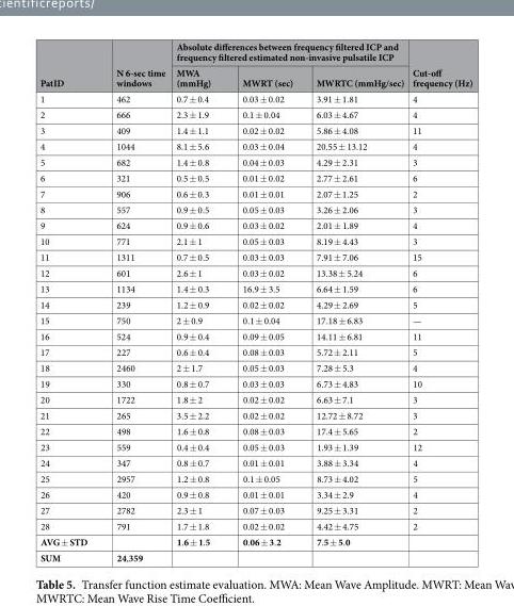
<table><thead><tr><td rowspan="2">PatID</td><td rowspan="2">N 6-sec time windows</td><td colspan="3">Absolute differences between frequency filtered ICP and frequency filtered estimated non-invasive pulsatile ICP</td><td rowspan="2">Cut-off frequency (Hz)</td></tr><tr><td>MWA (mmHg)</td><td>MWRT (sec)</td><td>MWRTC (mmHg/sec)</td></tr></thead><tbody><tr><td>1</td><td>462</td><td>0.7 ± 0.4</td><td>0.03 ± 0.02</td><td>3.91 ± 1.81</td><td>4</td></tr><tr><td>2</td><td>666</td><td>2.3 ± 1.9</td><td>0.1 ± 0.04</td><td>6.03 ± 4.67</td><td>4</td></tr><tr><td>3</td><td>409</td><td>1.4 ± 1.1</td><td>0.02 ± 0.02</td><td>5.86 ± 4.08</td><td>11</td></tr><tr><td>4</td><td>1044</td><td>8.1 ± 5.6</td><td>0.03 ± 0.04</td><td>20.55 ± 13.12</td><td>4</td></tr><tr><td>5</td><td>682</td><td>1.4 ± 0.8</td><td>0.04 ± 0.03</td><td>4.29 ± 2.31</td><td>3</td></tr><tr><td>6</td><td>321</td><td>0.5 ± 0.5</td><td>0.01 ± 0.02</td><td>2.77 ± 2.61</td><td>6</td></tr><tr><td>7</td><td>906</td><td>0.6 ± 0.3</td><td>0.01 ± 0.01</td><td>2.07 ± 1.25</td><td>2</td></tr><tr><td>8</td><td>557</td><td>0.9 ± 0.5</td><td>0.05 ± 0.03</td><td>3.26 ± 2.06</td><td>3</td></tr><tr><td>9</td><td>624</td><td>0.9 ± 0.6</td><td>0.03 ± 0.02</td><td>2.01 ± 1.89</td><td>4</td></tr><tr><td>10</td><td>771</td><td>2.1 ± 1</td><td>0.05 ± 0.03</td><td>8.19 ± 4.43</td><td>3</td></tr><tr><td>11</td><td>1311</td><td>0.7 ± 0.5</td><td>0.03 ± 0.03</td><td>7.91 ± 7.06</td><td>15</td></tr><tr><td>12</td><td>601</td><td>2.6 ± 1</td><td>0.03 ± 0.02</td><td>13.38 ± 5.24</td><td>6</td></tr><tr><td>13</td><td>1134</td><td>1.4 ± 0.3</td><td>16.9 ± 3.5</td><td>6.64 ± 1.59</td><td>6</td></tr><tr><td>14</td><td>239</td><td>1.2 ± 0.9</td><td>0.02 ± 0.02</td><td>4.29 ± 2.69</td><td>5</td></tr><tr><td>15</td><td>750</td><td>2 ± 0.9</td><td>0.1 ± 0.04</td><td>17.18 ± 6.83</td><td>—</td></tr><tr><td>16</td><td>524</td><td>0.9 ± 0.4</td><td>0.09 ± 0.05</td><td>14.11 ± 6.81</td><td>11</td></tr><tr><td>17</td><td>227</td><td>0.6 ± 0.4</td><td>0.08 ± 0.03</td><td>5.72 ± 2.11</td><td>5</td></tr><tr><td>18</td><td>2460</td><td>2 ± 1.7</td><td>0.05 ± 0.03</td><td>7.28 ± 5.3</td><td>4</td></tr><tr><td>19</td><td>330</td><td>0.8 ± 0.7</td><td>0.03 ± 0.03</td><td>6.73 ± 4.83</td><td>10</td></tr><tr><td>20</td><td>1722</td><td>1.8 ± 2</td><td>0.02 ± 0.02</td><td>6.63 ± 7.1</td><td>3</td></tr><tr><td>21</td><td>265</td><td>3.5 ± 2.2</td><td>0.02 ± 0.02</td><td>12.72 ± 8.72</td><td>3</td></tr><tr><td>22</td><td>498</td><td>1.6 ± 0.8</td><td>0.08 ± 0.03</td><td>17.4 ± 5.65</td><td>2</td></tr><tr><td>23</td><td>559</td><td>0.4 ± 0.4</td><td>0.05 ± 0.03</td><td>1.93 ± 1.39</td><td>12</td></tr><tr><td>24</td><td>347</td><td>0.8 ± 0.7</td><td>0.01 ± 0.01</td><td>3.88 ± 3.34</td><td>4</td></tr><tr><td>25</td><td>2957</td><td>1.2 ± 0.8</td><td>0.1 ± 0.05</td><td>8.73 ± 4.02</td><td>5</td></tr><tr><td>26</td><td>420</td><td>0.9 ± 0.8</td><td>0.01 ± 0.01</td><td>3.34 ± 2.9</td><td>4</td></tr><tr><td>27</td><td>2782</td><td>2.3 ± 1</td><td>0.07 ± 0.03</td><td>9.25 ± 3.31</td><td>2</td></tr><tr><td>28</td><td>791</td><td>1.7 ± 1.8</td><td>0.02 ± 0.02</td><td>4.42 ± 4.75</td><td>2</td></tr><tr><td>AVG ± STD</td><td></td><td>1.6 ± 1.5</td><td>0.06 ± 3.2</td><td>7.5 ± 5.0</td><td></td></tr><tr><td>SUM</td><td>24,359</td><td></td><td></td><td></td><td></td></tr></tbody></table>